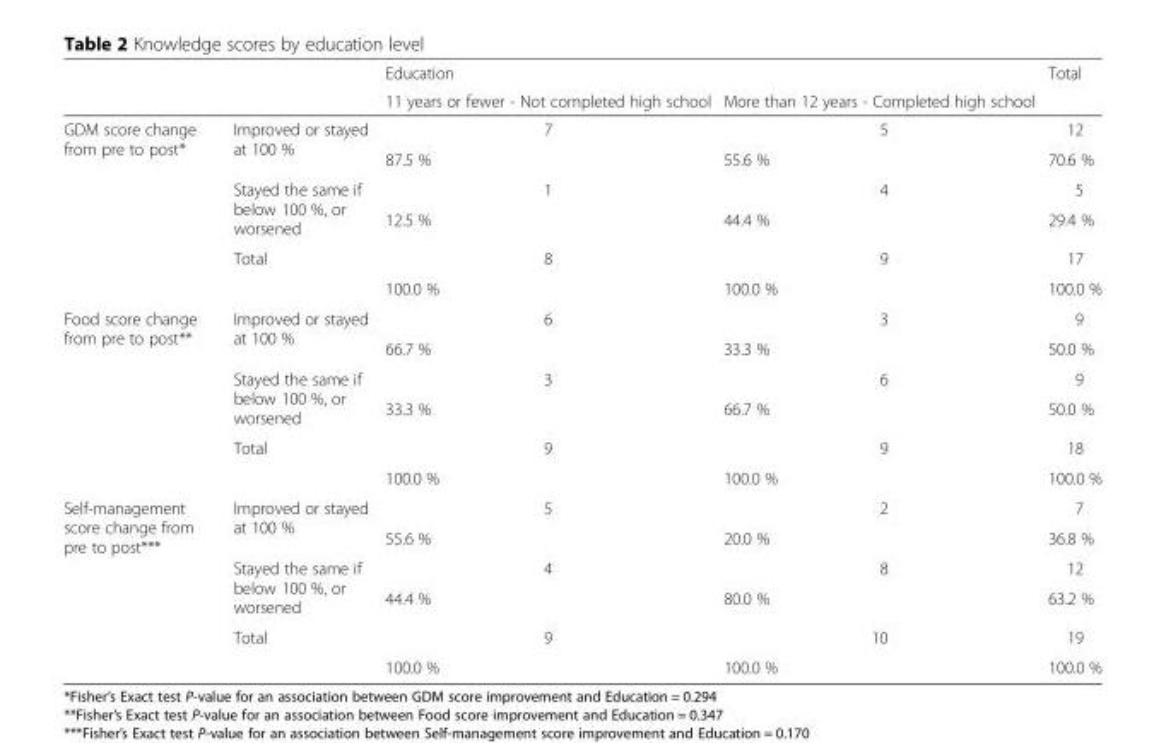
<table><thead><tr><td rowspan="2"></td><td rowspan="2"></td><td colspan="2">Education</td><td rowspan="2">Total</td></tr><tr><td>11 years or fewer - Not completed high school</td><td>More than 12 years - Completed high school</td></tr></thead><tbody><tr><td rowspan="6">GDM score change from pre to post*</td><td rowspan="2">Improved or stayed at 100 %</td><td>7</td><td>5</td><td>12</td></tr><tr><td>87.5 %</td><td>55.6 %</td><td>70.6 %</td></tr><tr><td rowspan="2">Stayed the same if below 100 %, or worsened</td><td>1</td><td>4</td><td>5</td></tr><tr><td>12.5 %</td><td>44.4 %</td><td>29.4 %</td></tr><tr><td rowspan="2">Total</td><td>8</td><td>9</td><td>17</td></tr><tr><td>100.0 %</td><td>100.0 %</td><td>100.0 %</td></tr><tr><td rowspan="6">Food score change from pre to post**</td><td rowspan="2">Improved or stayed at 100 %</td><td>6</td><td>3</td><td>9</td></tr><tr><td>66.7 %</td><td>33.3 %</td><td>50.0 %</td></tr><tr><td rowspan="2">Stayed the same if below 100 %, or worsened</td><td>3</td><td>6</td><td>9</td></tr><tr><td>33.3 %</td><td>66.7 %</td><td>50.0 %</td></tr><tr><td rowspan="2">Total</td><td>9</td><td>9</td><td>18</td></tr><tr><td>100.0 %</td><td>100.0 %</td><td>100.0 %</td></tr><tr><td rowspan="6">Self-management score change from pre to post***</td><td rowspan="2">Improved or stayed at 100 %</td><td>5</td><td>2</td><td>7</td></tr><tr><td>55.6 %</td><td>20.0 %</td><td>36.8 %</td></tr><tr><td rowspan="2">Stayed the same if below 100 %, or worsened</td><td>4</td><td>8</td><td>12</td></tr><tr><td>44.4 %</td><td>80.0 %</td><td>63.2 %</td></tr><tr><td rowspan="2">Total</td><td>9</td><td>10</td><td>19</td></tr><tr><td>100.0 %</td><td>100.0 %</td><td>100.0 %</td></tr></tbody></table>